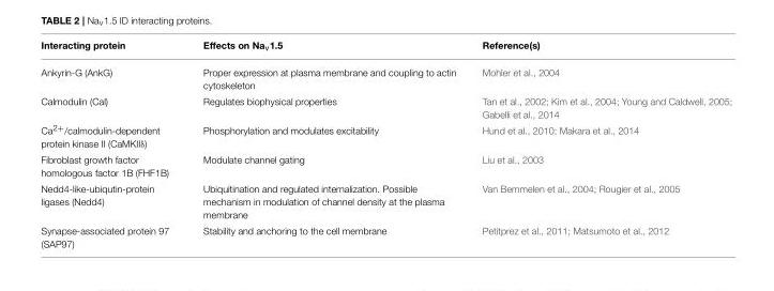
<table><thead><tr><td>Interacting protein</td><td>Effects on Na<sub>v</sub>1.5</td><td>Reference(s)</td></tr></thead><tbody><tr><td>Ankyrin-G (AnkG)</td><td>Proper expression at plasma membrane and coupling to actin cytoskeleton</td><td>Mohler et al., 2004</td></tr><tr><td>Calmodulin (Cal)</td><td>Regulates biophysical properties</td><td>Tan et al., 2002; Kim et al., 2004; Young and Caldwell, 2005; Gabelli et al., 2014</td></tr><tr><td>Ca<sup>2+</sup>/calmodulin-dependent protein kinase II (CaMKIIδ)</td><td>Phosphorylation and modulates excitability</td><td>Hund et al., 2010; Makara et al., 2014</td></tr><tr><td>Fibroblast growth factor homologous factor 1B (FHF1B)</td><td>Modulate channel gating</td><td>Liu et al., 2003</td></tr><tr><td>Nedd4-like-ubiqutin-protein ligases (Nedd4)</td><td>Ubiquitination and regulated internalization. Possible mechanism in modulation of channel density at the plasma membrane</td><td>Van Bemmelen et al., 2004; Rougier et al., 2005</td></tr><tr><td>Synapse-associated protein 97 (SAP97)</td><td>Stability and anchoring to the cell membrane</td><td>Petitprez et al., 2011; Matsumoto et al., 2012</td></tr></tbody></table>